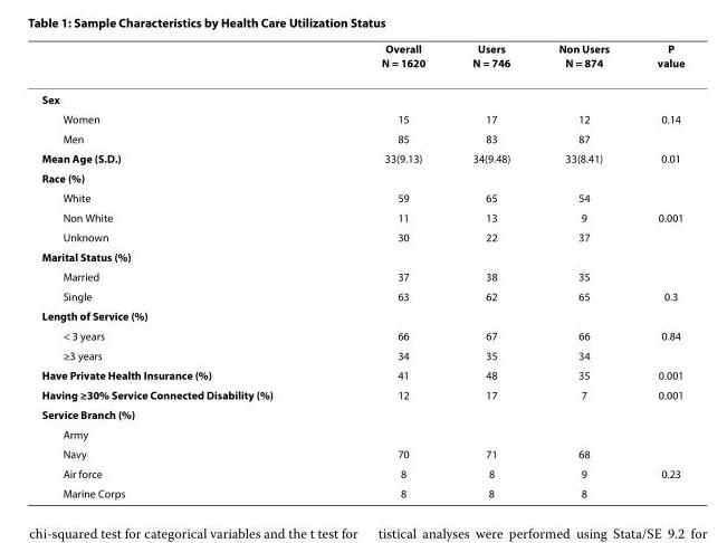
<table><thead><tr><td></td><td>Overall N = 1620</td><td>Users N = 746</td><td>Non Users N = 874</td><td>P value</td></tr></thead><tbody><tr><td colspan="5">Sex</td></tr><tr><td>Women</td><td>15</td><td>17</td><td>12</td><td>0.14</td></tr><tr><td>Men</td><td>85</td><td>83</td><td>87</td><td></td></tr><tr><td>Mean Age (S.D.)</td><td>33(9.13)</td><td>34(9.48)</td><td>33(8.41)</td><td>0.01</td></tr><tr><td colspan="5">Race (%)</td></tr><tr><td>White</td><td>59</td><td>65</td><td>54</td><td></td></tr><tr><td>Non White</td><td>11</td><td>13</td><td>9</td><td>0.001</td></tr><tr><td>Unknown</td><td>30</td><td>22</td><td>37</td><td></td></tr><tr><td colspan="5">Marital Status (%)</td></tr><tr><td>Married</td><td>37</td><td>38</td><td>35</td><td></td></tr><tr><td>Single</td><td>63</td><td>62</td><td>65</td><td>0.3</td></tr><tr><td colspan="5">Length of Service (%)</td></tr><tr><td>&lt; 3 years</td><td>66</td><td>67</td><td>66</td><td>0.84</td></tr><tr><td>≥3 years</td><td>34</td><td>35</td><td>34</td><td></td></tr><tr><td>Have Private Health Insurance (%)</td><td>41</td><td>48</td><td>35</td><td>0.001</td></tr><tr><td>Having ≥30% Service Connected Disability (%)</td><td>12</td><td>17</td><td>7</td><td>0.001</td></tr><tr><td colspan="5">Service Branch (%)</td></tr><tr><td colspan="5">Army</td></tr><tr><td>Navy</td><td>70</td><td>71</td><td>68</td><td></td></tr><tr><td>Air force</td><td>8</td><td>8</td><td>9</td><td>0.23</td></tr><tr><td>Marine Corps</td><td>8</td><td>8</td><td>8</td><td></td></tr></tbody></table>